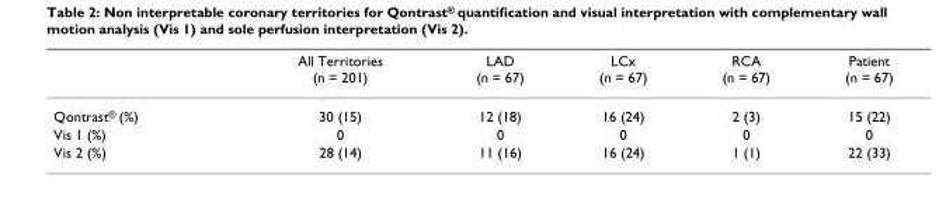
<table><thead><tr><td></td><td>All Territories (n = 201)</td><td>LAD (n = 67)</td><td>LCx (n = 67)</td><td>RCA (n = 67)</td><td>Patient (n = 67)</td></tr></thead><tbody><tr><td>Qontrast<sup>®</sup> (%)</td><td>30 (15)</td><td>12 (18)</td><td>16 (24)</td><td>2 (3)</td><td>15 (22)</td></tr><tr><td>Vis 1 (%)</td><td>0</td><td>0</td><td>0</td><td>0</td><td>0</td></tr><tr><td>Vis 2 (%)</td><td>28 (14)</td><td>11 (16)</td><td>16 (24)</td><td>1 (1)</td><td>22 (33)</td></tr></tbody></table>